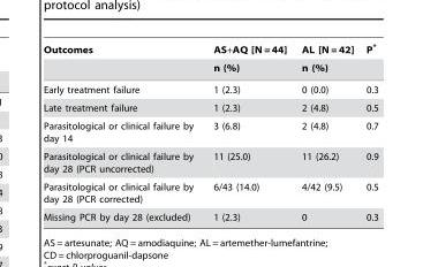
<table><thead><tr><td rowspan="2">Outcomes</td><td rowspan="2">AS+AQ [N = 44] n (%)</td><td rowspan="2">AL [N = 42] n (%)</td><td rowspan="2">P*</td></tr><tr></tr></thead><tbody><tr><td>Early treatment failure</td><td>1 (2.3)</td><td>0 (0.0)</td><td>0.3</td></tr><tr><td>Late treatment failure</td><td>1 (2.3)</td><td>2 (4.8)</td><td>0.5</td></tr><tr><td>Parasitological or clinical failure by day 14</td><td>3 (6.8)</td><td>2 (4.8)</td><td>0.7</td></tr><tr><td>Parasitological or clinical failure by day 28 (PCR uncorrected)</td><td>11 (25.0)</td><td>11 (26.2)</td><td>0.9</td></tr><tr><td>Parasitological or clinical failure by day 28 (PCR corrected)</td><td>6/43 (14.0)</td><td>4/42 (9.5)</td><td>0.5</td></tr><tr><td>Missing PCR by day 28 (excluded)</td><td>1 (2.3)</td><td>0</td><td>0.3</td></tr></tbody></table>